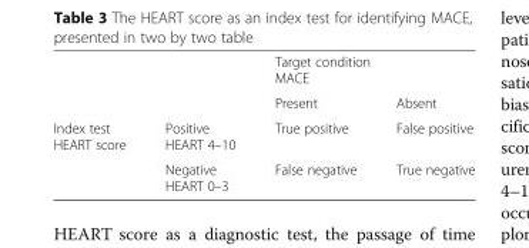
<table><thead><tr><td rowspan="2"></td><td rowspan="2"></td><td colspan="2">Target condition MACE</td></tr><tr><td>Present</td><td>Absent</td></tr></thead><tbody><tr><td rowspan="2">Index test HEART score</td><td>Positive HEART 4–10</td><td>True positive</td><td>False positive</td></tr><tr><td>Negative HEART 0–3</td><td>False negative</td><td>True negative</td></tr></tbody></table>